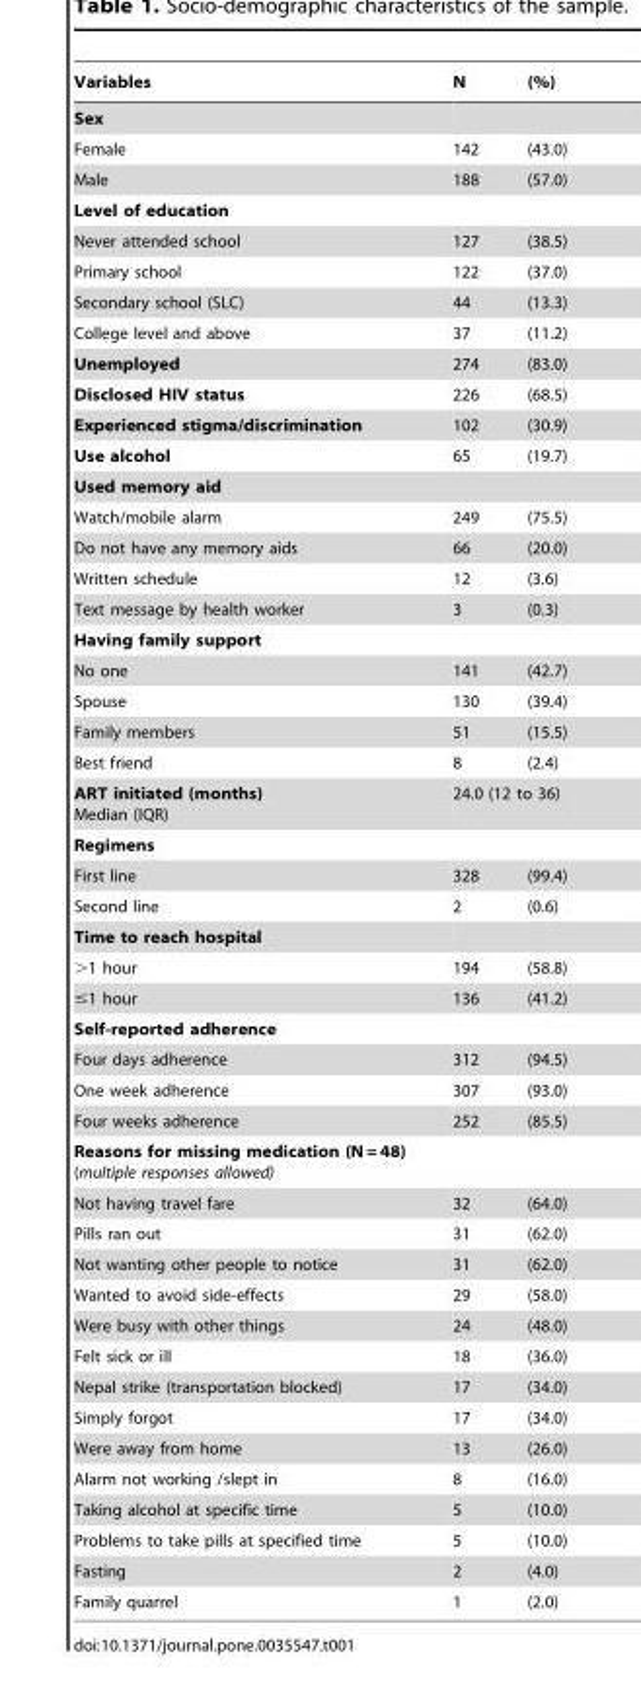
<table><thead><tr><td>Variables</td><td>N</td><td>(%)</td></tr></thead><tbody><tr><td colspan="3">Sex</td></tr><tr><td>Female</td><td>142</td><td>(43.0)</td></tr><tr><td>Male</td><td>188</td><td>(57.0)</td></tr><tr><td colspan="3">Level of education</td></tr><tr><td>Never attended school</td><td>127</td><td>(38.5)</td></tr><tr><td>Primary school</td><td>122</td><td>(37.0)</td></tr><tr><td>Secondary school (SLC)</td><td>44</td><td>(13.3)</td></tr><tr><td>College level and above</td><td>37</td><td>(11.2)</td></tr><tr><td>Unemployed</td><td>274</td><td>(83.0)</td></tr><tr><td>Disclosed HIV status</td><td>226</td><td>(68.5)</td></tr><tr><td>Experienced stigma/discrimination</td><td>102</td><td>(30.9)</td></tr><tr><td>Use alcohol</td><td>65</td><td>(19.7)</td></tr><tr><td colspan="3">Used memory aid</td></tr><tr><td>Watch/mobile alarm</td><td>249</td><td>(75.5)</td></tr><tr><td>Do not have any memory aids</td><td>66</td><td>(20.0)</td></tr><tr><td>Written schedule</td><td>12</td><td>(3.6)</td></tr><tr><td>Text message by health worker</td><td>3</td><td>(0.3)</td></tr><tr><td colspan="3">Having family support</td></tr><tr><td>No one</td><td>141</td><td>(42.7)</td></tr><tr><td>Spouse</td><td>130</td><td>(39.4)</td></tr><tr><td>Family members</td><td>51</td><td>(15.5)</td></tr><tr><td>Best friend</td><td>8</td><td>(2.4)</td></tr><tr><td>ART initiated (months) Median (IQR)</td><td colspan="2">24.0 (12 to 36)</td></tr><tr><td colspan="3">Regimens</td></tr><tr><td>First line</td><td>328</td><td>(99.4)</td></tr><tr><td>Second line</td><td>2</td><td>(0.6)</td></tr><tr><td colspan="3">Time to reach hospital</td></tr><tr><td>&gt;1 hour</td><td>194</td><td>(58.8)</td></tr><tr><td>≤1 hour</td><td>136</td><td>(41.2)</td></tr><tr><td colspan="3">Self-reported adherence</td></tr><tr><td>Four days adherence</td><td>312</td><td>(94.5)</td></tr><tr><td>One week adherence</td><td>307</td><td>(93.0)</td></tr><tr><td>Four weeks adherence</td><td>252</td><td>(85.5)</td></tr><tr><td colspan="3">Reasons for missing medication (N = 48) (multiple responses allowed)</td></tr><tr><td>Not having travel fare</td><td>32</td><td>(64.0)</td></tr><tr><td>Pills ran out</td><td>31</td><td>(62.0)</td></tr><tr><td>Not wanting other people to notice</td><td>31</td><td>(62.0)</td></tr><tr><td>Wanted to avoid side-effects</td><td>29</td><td>(58.0)</td></tr><tr><td>Were busy with other things</td><td>24</td><td>(48.0)</td></tr><tr><td>Felt sick or ill</td><td>18</td><td>(36.0)</td></tr><tr><td>Nepal strike (transportation blocked)</td><td>17</td><td>(34.0)</td></tr><tr><td>Simply forgot</td><td>17</td><td>(34.0)</td></tr><tr><td>Were away from home</td><td>13</td><td>(26.0)</td></tr><tr><td>Alarm not working /slept in</td><td>8</td><td>(16.0)</td></tr><tr><td>Taking alcohol at specific time</td><td>5</td><td>(10.0)</td></tr><tr><td>Problems to take pills at specified time</td><td>5</td><td>(10.0)</td></tr><tr><td>Fasting</td><td>2</td><td>(4.0)</td></tr><tr><td>Family quarrel</td><td>1</td><td>(2.0)</td></tr></tbody></table>